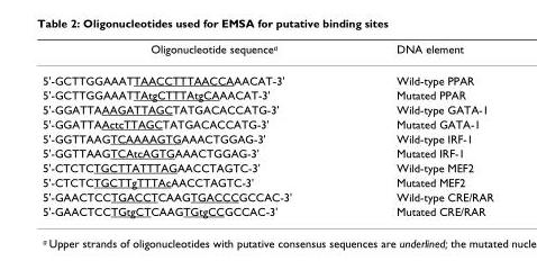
<table><thead><tr><td>Oligonucleotide sequencea</td><td>DNA element</td></tr></thead><tbody><tr><td>5&#x27;-GCTTGGAAATTAACCTTTAACCAAACAT-3&#x27;</td><td>Wild-type PPAR</td></tr><tr><td>5&#x27;-GCTTGGAAATTAtgCTTTAtgCAAACAT-3&#x27;</td><td>Mutated PPAR</td></tr><tr><td>5&#x27;-GGATTAAAGATTAGCTATGACACCATG-3&#x27;</td><td>Wild-type GATA-1</td></tr><tr><td>5&#x27;-GGATTAActcTTAGCTATGACACCATG-3&#x27;</td><td>Mutated GATA-1</td></tr><tr><td>5&#x27;-GGTTAAGTCAAAAGTGAAACTGGAG-3&#x27;</td><td>Wild-type IRF-1</td></tr><tr><td>5&#x27;-GGTTAAGTCAtcAGTGAAACTGGAG-3&#x27;</td><td>Mutated IRF-1</td></tr><tr><td>5&#x27;-CTCTCTGCTTATTTAGAACCTAGTC-3&#x27;</td><td>Wild-type MEF2</td></tr><tr><td>5&#x27;-CTCTCTGCTTgTTTAcAACCTAGTC-3&#x27;</td><td>Mutated MEF2</td></tr><tr><td>5&#x27;-GAACTCCTGACCTCAAGTGACCCGCCAC-3&#x27;</td><td>Wild-type CRE/RAR</td></tr><tr><td>5&#x27;-GAACTCCTGtgCTCAAGTGtgCCGCCAC-3&#x27;</td><td>Mutated CRE/RAR</td></tr></tbody></table>